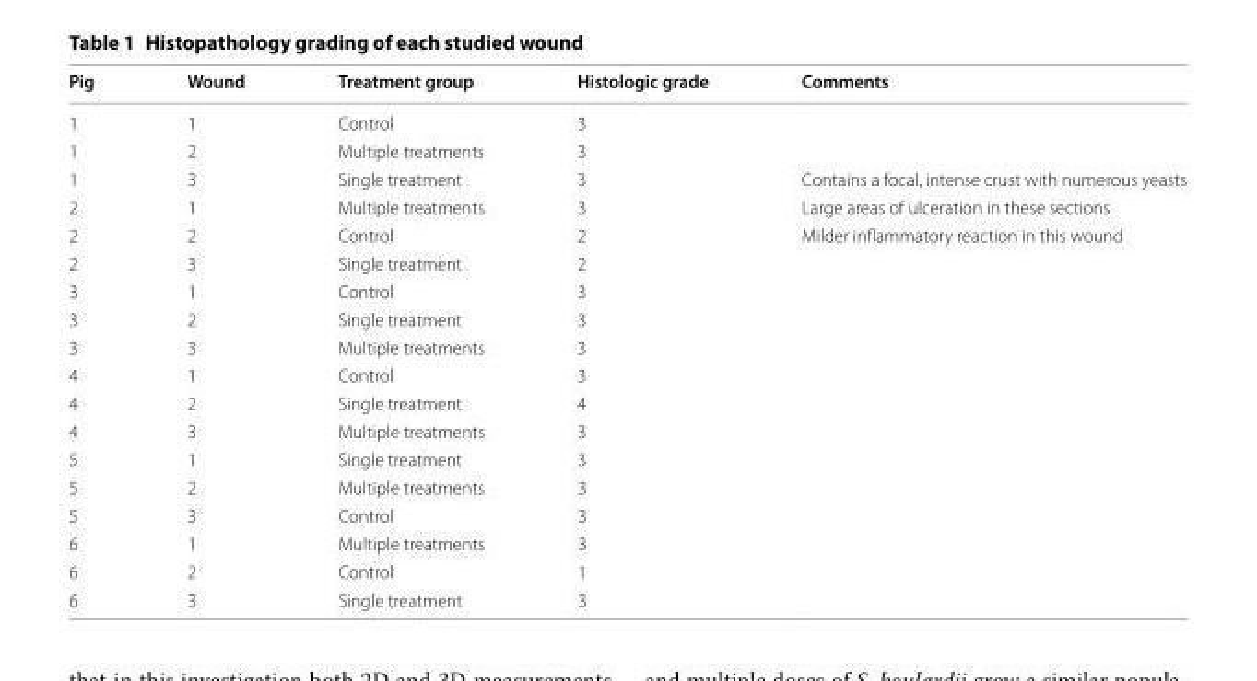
<table><thead><tr><td>Pig</td><td>Wound</td><td>Treatment group</td><td>Histologic grade</td><td>Comments</td></tr></thead><tbody><tr><td>1</td><td>1</td><td>Control</td><td>3</td><td></td></tr><tr><td>1</td><td>2</td><td>Multiple treatments</td><td>3</td><td></td></tr><tr><td>1</td><td>3</td><td>Single treatment</td><td>3</td><td>Contains a focal, intense crust with numerous yeasts</td></tr><tr><td>2</td><td>1</td><td>Multiple treatments</td><td>3</td><td>Large areas of ulceration in these sections</td></tr><tr><td>2</td><td>2</td><td>Control</td><td>2</td><td>Milder inflammatory reaction in this wound</td></tr><tr><td>2</td><td>3</td><td>Single treatment</td><td>2</td><td></td></tr><tr><td>3</td><td>1</td><td>Control</td><td>3</td><td></td></tr><tr><td>3</td><td>2</td><td>Single treatment</td><td>3</td><td></td></tr><tr><td>3</td><td>3</td><td>Multiple treatments</td><td>3</td><td></td></tr><tr><td>4</td><td>1</td><td>Control</td><td>3</td><td></td></tr><tr><td>4</td><td>2</td><td>Single treatment</td><td>4</td><td></td></tr><tr><td>4</td><td>3</td><td>Multiple treatments</td><td>3</td><td></td></tr><tr><td>5</td><td>1</td><td>Single treatment</td><td>3</td><td></td></tr><tr><td>5</td><td>2</td><td>Multiple treatments</td><td>3</td><td></td></tr><tr><td>5</td><td>3</td><td>Control</td><td>3</td><td></td></tr><tr><td>6</td><td>1</td><td>Multiple treatments</td><td>3</td><td></td></tr><tr><td>6</td><td>2</td><td>Control</td><td>1</td><td></td></tr><tr><td>6</td><td>3</td><td>Single treatment</td><td>3</td><td></td></tr></tbody></table>